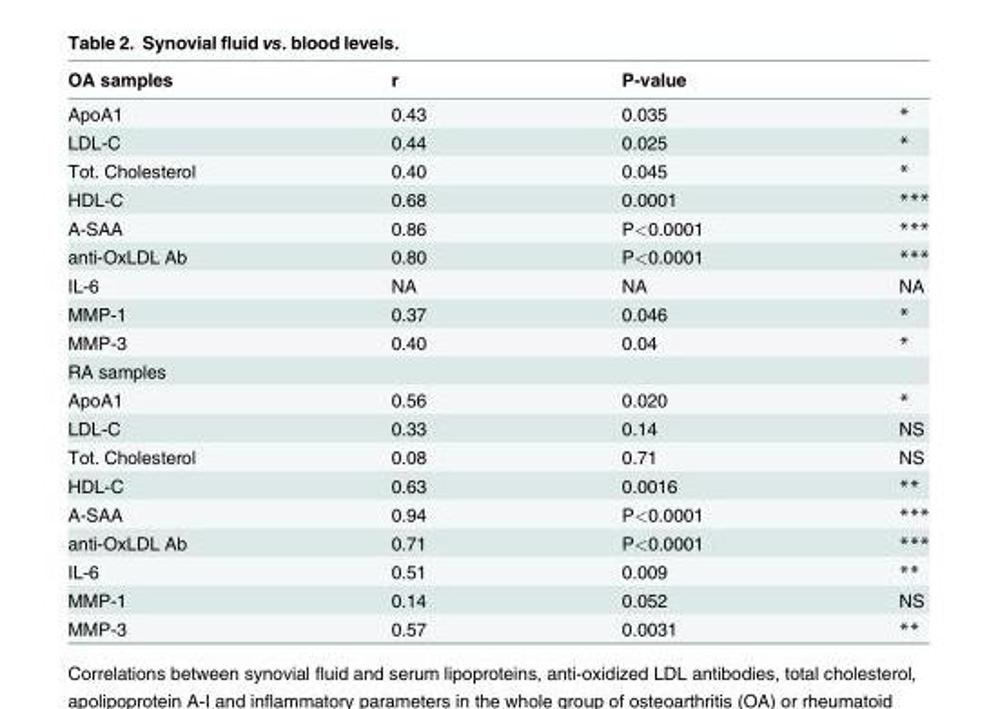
<table><thead><tr><td>OA samples</td><td>r</td><td>P-value</td><td></td></tr></thead><tbody><tr><td>ApoA1</td><td>0.43</td><td>0.035</td><td>*</td></tr><tr><td>LDL-C</td><td>0.44</td><td>0.025</td><td>*</td></tr><tr><td>Tot. Cholesterol</td><td>0.40</td><td>0.045</td><td>*</td></tr><tr><td>HDL-C</td><td>0.68</td><td>0.0001</td><td>***</td></tr><tr><td>A-SAA</td><td>0.86</td><td>P&lt;0.0001</td><td>***</td></tr><tr><td>anti-OxLDL Ab</td><td>0.80</td><td>P&lt;0.0001</td><td>***</td></tr><tr><td>IL-6</td><td>NA</td><td>NA</td><td>NA</td></tr><tr><td>MMP-1</td><td>0.37</td><td>0.046</td><td>*</td></tr><tr><td>MMP-3</td><td>0.40</td><td>0.04</td><td>*</td></tr><tr><td colspan="4">RA samples</td></tr><tr><td>ApoA1</td><td>0.56</td><td>0.020</td><td>*</td></tr><tr><td>LDL-C</td><td>0.33</td><td>0.14</td><td>NS</td></tr><tr><td>Tot. Cholesterol</td><td>0.08</td><td>0.71</td><td>NS</td></tr><tr><td>HDL-C</td><td>0.63</td><td>0.0016</td><td>**</td></tr><tr><td>A-SAA</td><td>0.94</td><td>P&lt;0.0001</td><td>***</td></tr><tr><td>anti-OxLDL Ab</td><td>0.71</td><td>P&lt;0.0001</td><td>***</td></tr><tr><td>IL-6</td><td>0.51</td><td>0.009</td><td>**</td></tr><tr><td>MMP-1</td><td>0.14</td><td>0.052</td><td>NS</td></tr><tr><td>MMP-3</td><td>0.57</td><td>0.0031</td><td>**</td></tr></tbody></table>